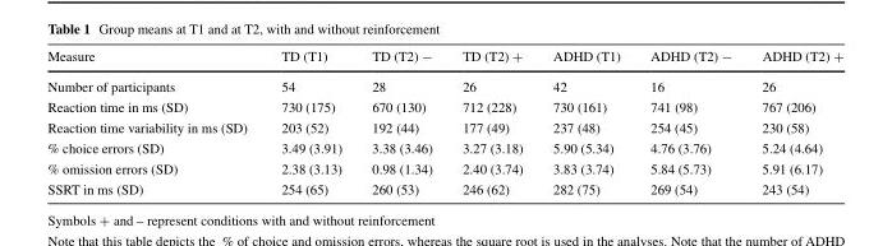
<table><thead><tr><td>Measure</td><td>TD (T1)</td><td>TD (T2) −</td><td>TD (T2) +</td><td>ADHD (T1)</td><td>ADHD (T2) −</td><td>ADHD (T2) +</td></tr></thead><tbody><tr><td>Number of participants</td><td>54</td><td>28</td><td>26</td><td>42</td><td>16</td><td>26</td></tr><tr><td>Reaction time in ms (SD)</td><td>730 (175)</td><td>670 (130)</td><td>712 (228)</td><td>730 (161)</td><td>741 (98)</td><td>767 (206)</td></tr><tr><td>Reaction time variability in ms (SD)</td><td>203 (52)</td><td>192 (44)</td><td>177 (49)</td><td>237 (48)</td><td>254 (45)</td><td>230 (58)</td></tr><tr><td>% choice errors (SD)</td><td>3.49 (3.91)</td><td>3.38 (3.46)</td><td>3.27 (3.18)</td><td>5.90 (5.34)</td><td>4.76 (3.76)</td><td>5.24 (4.64)</td></tr><tr><td>% omission errors (SD)</td><td>2.38 (3.13)</td><td>0.98 (1.34)</td><td>2.40 (3.74)</td><td>3.83 (3.74)</td><td>5.84 (5.73)</td><td>5.91 (6.17)</td></tr><tr><td>SSRT in ms (SD)</td><td>254 (65)</td><td>260 (53)</td><td>246 (62)</td><td>282 (75)</td><td>269 (54)</td><td>243 (54)</td></tr></tbody></table>